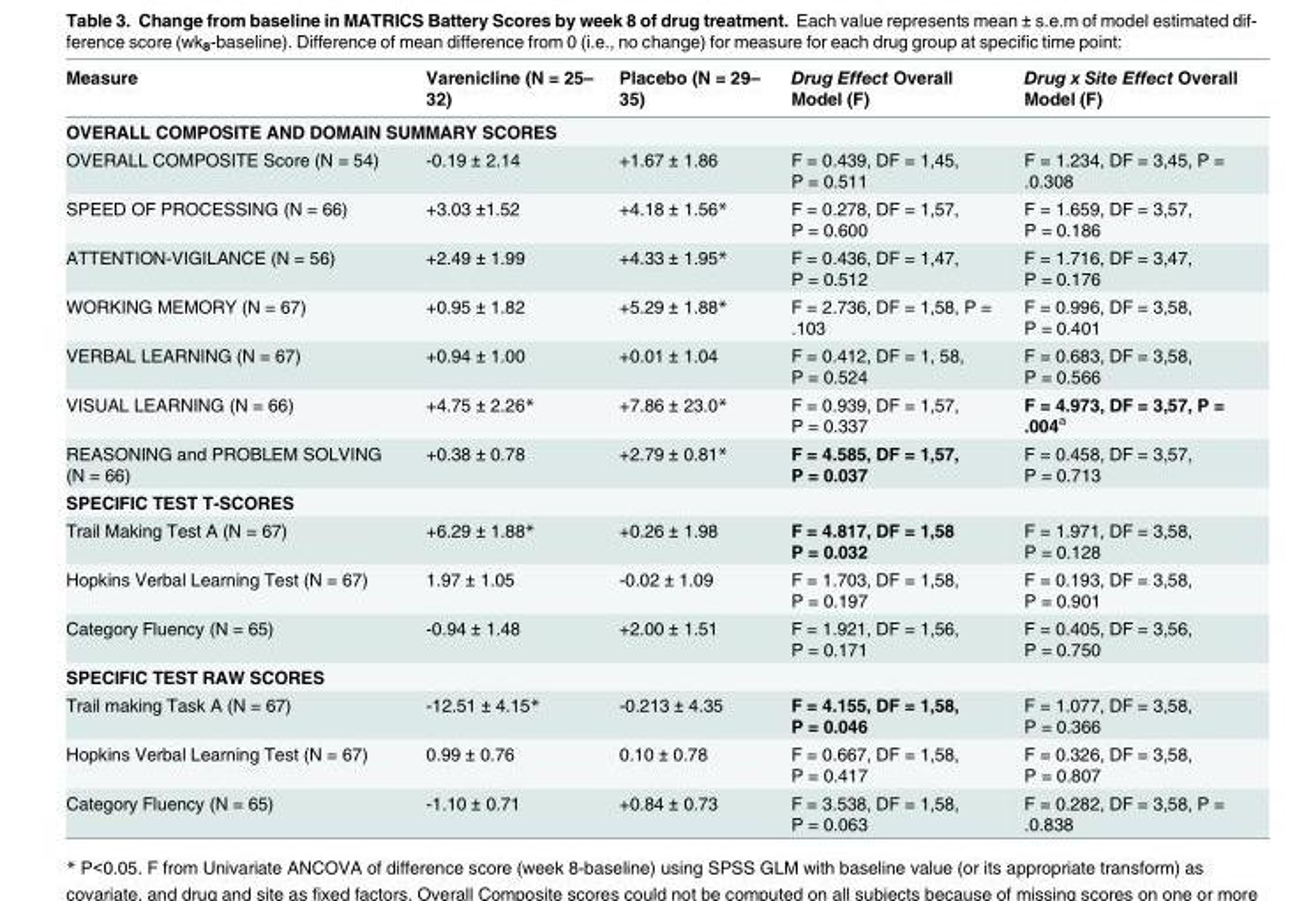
<table><thead><tr><td>Measure</td><td>Varenicline (N = 25– 32)</td><td>Placebo (N = 29– 35)</td><td>Drug Effect Overall Model (F)</td><td>Drug x Site Effect Overall Model (F)</td></tr></thead><tbody><tr><td colspan="5">OVERALL COMPOSITE AND DOMAIN SUMMARY SCORES</td></tr><tr><td>OVERALL COMPOSITE Score (N = 54)</td><td>-0.19 ± 2.14</td><td>+1.67 ± 1.86</td><td>F = 0.439, DF = 1,45, P = 0.511</td><td>F = 1.234, DF = 3,45, P = .0.308</td></tr><tr><td>SPEED OF PROCESSING (N = 66)</td><td>+3.03 ±1.52</td><td>+4.18 ± 1.56*</td><td>F = 0.278, DF = 1,57, P = 0.600</td><td>F = 1.659, DF = 3,57, P = 0.186</td></tr><tr><td>ATTENTION-VIGILANCE (N = 56)</td><td>+2.49 ± 1.99</td><td>+4.33 ± 1.95*</td><td>F = 0.436, DF = 1,47, P = 0.512</td><td>F = 1.716, DF = 3,47, P = 0.176</td></tr><tr><td>WORKING MEMORY (N = 67)</td><td>+0.95 ± 1.82</td><td>+5.29 ± 1.88*</td><td>F = 2.736, DF = 1,58, P = .103</td><td>F = 0.996, DF = 3,58, P = 0.401</td></tr><tr><td>VERBAL LEARNING (N = 67)</td><td>+0.94 ± 1.00</td><td>+0.01 ± 1.04</td><td>F = 0.412, DF = 1, 58, P = 0.524</td><td>F = 0.683, DF = 3,58, P = 0.566</td></tr><tr><td>VISUAL LEARNING (N = 66)</td><td>+4.75 ± 2.26*</td><td>+7.86 ± 23.0*</td><td>F = 0.939, DF = 1,57, P = 0.337</td><td>F = 4.973, DF = 3,57, P = .004<sup>a</sup></td></tr><tr><td>REASONING and PROBLEM SOLVING (N = 66)</td><td>+0.38 ± 0.78</td><td>+2.79 ± 0.81*</td><td>F = 4.585, DF = 1,57, P = 0.037</td><td>F = 0.458, DF = 3,57, P = 0.713</td></tr><tr><td colspan="5">SPECIFIC TEST T-SCORES</td></tr><tr><td>Trail Making Test A (N = 67)</td><td>+6.29 ± 1.88*</td><td>+0.26 ± 1.98</td><td>F = 4.817, DF = 1,58 P = 0.032</td><td>F = 1.971, DF = 3,58, P = 0.128</td></tr><tr><td>Hopkins Verbal Learning Test (N = 67)</td><td>1.97 ± 1.05</td><td>-0.02 ± 1.09</td><td>F = 1.703, DF = 1,58, P = 0.197</td><td>F = 0.193, DF = 3,58, P = 0.901</td></tr><tr><td>Category Fluency (N = 65)</td><td>-0.94 ± 1.48</td><td>+2.00 ± 1.51</td><td>F = 1.921, DF = 1,56, P = 0.171</td><td>F = 0.405, DF = 3,56, P = 0.750</td></tr><tr><td colspan="5">SPECIFIC TEST RAW SCORES</td></tr><tr><td>Trail making Task A (N = 67)</td><td>-12.51 ± 4.15*</td><td>-0.213 ± 4.35</td><td>F = 4.155, DF = 1,58, P = 0.046</td><td>F = 1.077, DF = 3,58, P = 0.366</td></tr><tr><td>Hopkins Verbal Learning Test (N = 67)</td><td>0.99 ± 0.76</td><td>0.10 ± 0.78</td><td>F = 0.667, DF = 1,58, P = 0.417</td><td>F = 0.326, DF = 3,58, P = 0.807</td></tr><tr><td>Category Fluency (N = 65)</td><td>-1.10 ± 0.71</td><td>+0.84 ± 0.73</td><td>F = 3.538, DF = 1,58, P = 0.063</td><td>F = 0.282, DF = 3,58, P = .0.838</td></tr></tbody></table>